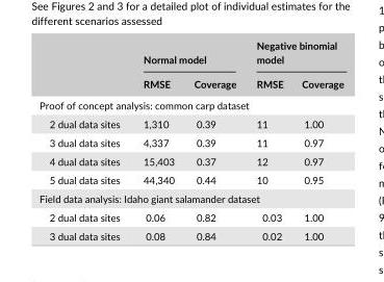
<table><thead><tr><td rowspan="2"></td><td colspan="2">Normal model</td><td colspan="2">Negative binomial model</td></tr><tr><td>RMSE</td><td>Coverage</td><td>RMSE</td><td>Coverage</td></tr></thead><tbody><tr><td colspan="5">Proof of concept analysis: common carp dataset</td></tr><tr><td>2 dual data sites</td><td>1,310</td><td>0.39</td><td>11</td><td>1.00</td></tr><tr><td>3 dual data sites</td><td>4,337</td><td>0.39</td><td>11</td><td>0.97</td></tr><tr><td>4 dual data sites</td><td>15,403</td><td>0.37</td><td>12</td><td>0.97</td></tr><tr><td>5 dual data sites</td><td>44,340</td><td>0.44</td><td>10</td><td>0.95</td></tr><tr><td colspan="5">Field data analysis: Idaho giant salamander dataset</td></tr><tr><td>2 dual data sites</td><td>0.06</td><td>0.82</td><td>0.03</td><td>1.00</td></tr><tr><td>3 dual data sites</td><td>0.08</td><td>0.84</td><td>0.02</td><td>1.00</td></tr></tbody></table>